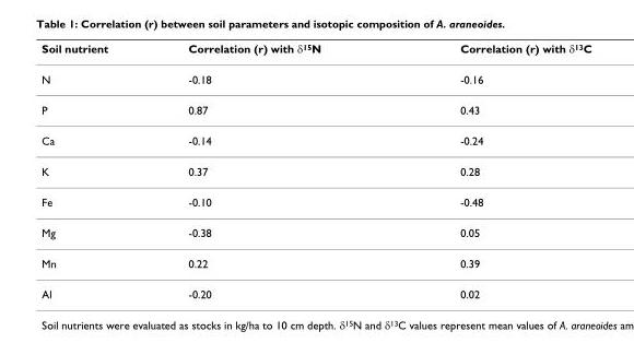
<table><thead><tr><td>Soil nutrient</td><td>Correlation (r) with δ<sup>15</sup>N</td><td>Correlation (r) with δ<sup>13</sup>C</td></tr></thead><tbody><tr><td>N</td><td>-0.18</td><td>-0.16</td></tr><tr><td>P</td><td>0.87</td><td>0.43</td></tr><tr><td>Ca</td><td>-0.14</td><td>-0.24</td></tr><tr><td>K</td><td>0.37</td><td>0.28</td></tr><tr><td>Fe</td><td>-0.10</td><td>-0.48</td></tr><tr><td>Mg</td><td>-0.38</td><td>0.05</td></tr><tr><td>Mn</td><td>0.22</td><td>0.39</td></tr><tr><td>Al</td><td>-0.20</td><td>0.02</td></tr></tbody></table>